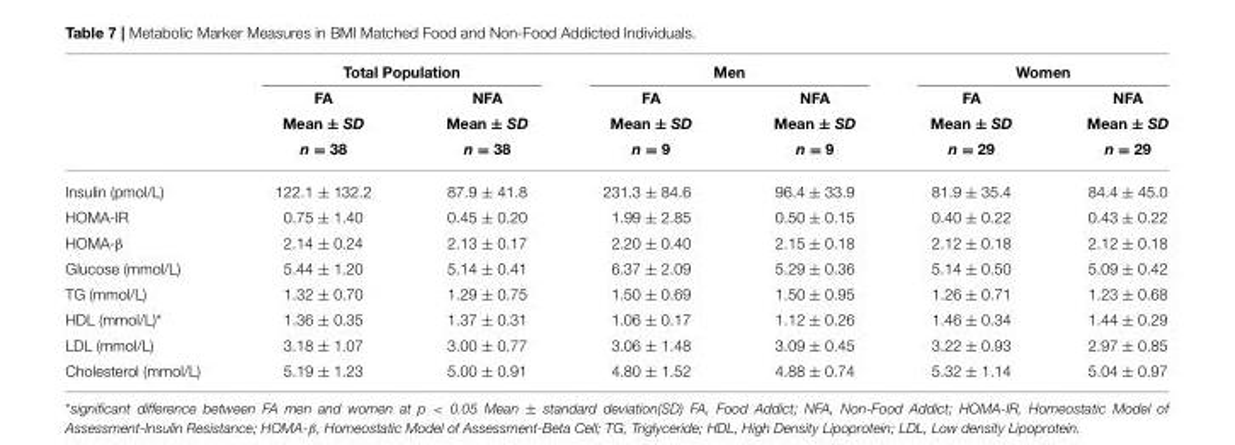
<table><thead><tr><td rowspan="2"></td><td colspan="2">Total Population</td><td colspan="2">Men</td><td colspan="2">Women</td></tr><tr><td>FA</td><td>NFA</td><td>FA</td><td>NFA</td><td>FA</td><td>NFA</td></tr></thead><tbody><tr><td></td><td>Mean ± SD</td><td>Mean ± SD</td><td>Mean ± SD</td><td>Mean ± SD</td><td>Mean ± SD</td><td>Mean ± SD</td></tr><tr><td></td><td>n = 38</td><td>n = 38</td><td>n = 9</td><td>n = 9</td><td>n = 29</td><td>n = 29</td></tr><tr><td>Insulin (pmol/L)</td><td>122.1 ± 132.2</td><td>87.9 ± 41.8</td><td>231.3 ± 84.6</td><td>96.4 ± 33.9</td><td>81.9 ± 35.4</td><td>84.4 ± 45.0</td></tr><tr><td>HOMA-IR</td><td>0.75 ± 1.40</td><td>0.45 ± 0.20</td><td>1.99 ± 2.85</td><td>0.50 ± 0.15</td><td>0.40 ± 0.22</td><td>0.43 ± 0.22</td></tr><tr><td>HOMA-β</td><td>2.14 ± 0.24</td><td>2.13 ± 0.17</td><td>2.20 ± 0.40</td><td>2.15 ± 0.18</td><td>2.12 ± 0.18</td><td>2.12 ± 0.18</td></tr><tr><td>Glucose (mmol/L)</td><td>5.44 ± 1.20</td><td>5.14 ± 0.41</td><td>6.37 ± 2.09</td><td>5.29 ± 0.36</td><td>5.14 ± 0.50</td><td>5.09 ± 0.42</td></tr><tr><td>TG (mmol/L)</td><td>1.32 ± 0.70</td><td>1.29 ± 0.75</td><td>1.50 ± 0.69</td><td>1.50 ± 0.95</td><td>1.26 ± 0.71</td><td>1.23 ± 0.68</td></tr><tr><td>HDL (mmol/L)*</td><td>1.36 ± 0.35</td><td>1.37 ± 0.31</td><td>1.06 ± 0.17</td><td>1.12 ± 0.26</td><td>1.46 ± 0.34</td><td>1.44 ± 0.29</td></tr><tr><td>LDL (mmol/L)</td><td>3.18 ± 1.07</td><td>3.00 ± 0.77</td><td>3.06 ± 1.48</td><td>3.09 ± 0.45</td><td>3.22 ± 0.93</td><td>2.97 ± 0.85</td></tr><tr><td>Cholesterol (mmol/L)</td><td>5.19 ± 1.23</td><td>5.00 ± 0.91</td><td>4.80 ± 1.52</td><td>4.88 ± 0.74</td><td>5.32 ± 1.14</td><td>5.04 ± 0.97</td></tr></tbody></table>